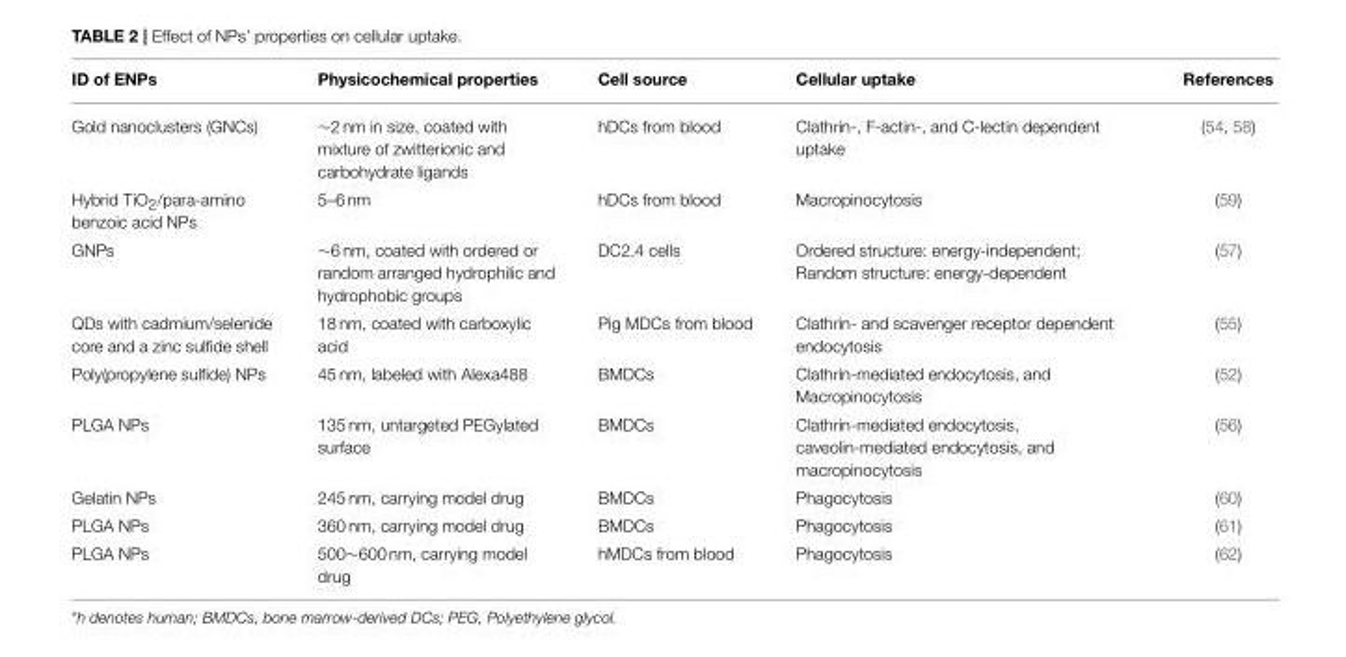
<table><thead><tr><td>ID of ENPs</td><td>Physicochemical properties</td><td>Cell source</td><td>Cellular uptake</td><td>References</td></tr></thead><tbody><tr><td>Gold nanoclusters (GNCs)</td><td>∼2 nm in size, coated with mixture of zwitterionic and carbohydrate ligands</td><td>hDCs from blood</td><td>Clathrin-, F-actin-, and C-lectin dependent uptake</td><td>(54, 58)</td></tr><tr><td>Hybrid TiO<sub>2</sub>/para-amino benzoic acid NPs</td><td>5–6 nm</td><td>hDCs from blood</td><td>Macropinocytosis</td><td>(59)</td></tr><tr><td>GNPs</td><td>∼6 nm, coated with ordered or random arranged hydrophilic and hydrophobic groups</td><td>DC2.4 cells</td><td>Ordered structure: energy-independent; Random structure: energy-dependent</td><td>(57)</td></tr><tr><td>QDs with cadmium/selenide core and a zinc sulfide shell</td><td>18 nm, coated with carboxylic acid</td><td>Pig MDCs from blood</td><td>Clathrin- and scavenger receptor dependent endocytosis</td><td>(55)</td></tr><tr><td>Poly(propylene sulfide) NPs</td><td>45 nm, labeled with Alexa488</td><td>BMDCs</td><td>Clathrin-mediated endocytosis, and Macropinocytosis</td><td>(52)</td></tr><tr><td>PLGA NPs</td><td>135 nm, untargeted PEGylated surface</td><td>BMDCs</td><td>Clathrin-mediated endocytosis, caveolin-mediated endocytosis, and macropinocytosis</td><td>(56)</td></tr><tr><td>Gelatin NPs</td><td>245 nm, carrying model drug</td><td>BMDCs</td><td>Phagocytosis</td><td>(60)</td></tr><tr><td>PLGA NPs</td><td>360 nm, carrying model drug</td><td>BMDCs</td><td>Phagocytosis</td><td>(61)</td></tr><tr><td>PLGA NPs</td><td>500∼600 nm, carrying model drug</td><td>hMDCs from blood</td><td>Phagocytosis</td><td>(62)</td></tr></tbody></table>